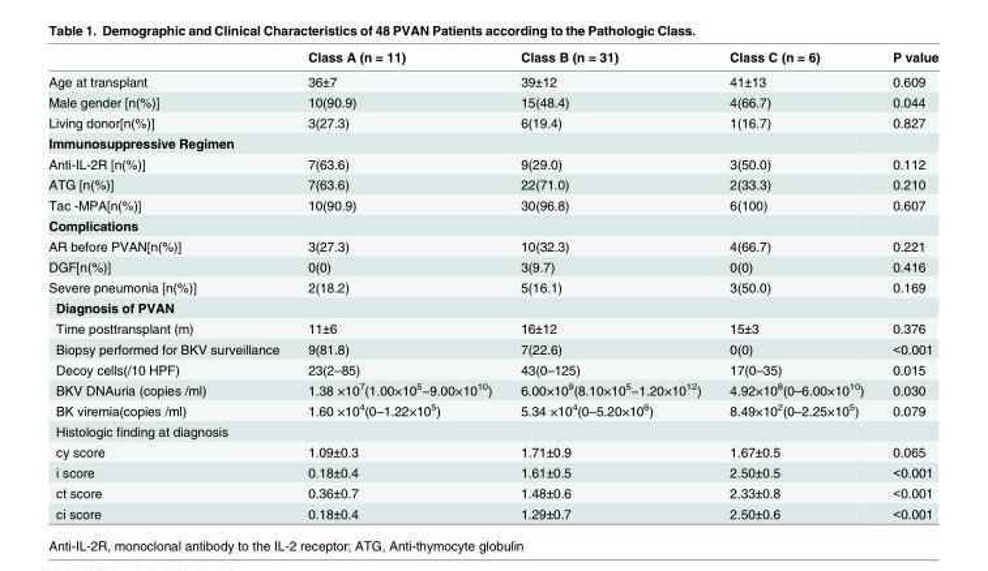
<table><thead><tr><td></td><td>Class A (n = 11)</td><td>Class B (n = 31)</td><td>Class C (n = 6)</td><td>P value</td></tr></thead><tbody><tr><td>Age at transplant</td><td>36±7</td><td>39±12</td><td>41±13</td><td>0.609</td></tr><tr><td>Male gender [n(%)]</td><td>10(90.9)</td><td>15(48.4)</td><td>4(66.7)</td><td>0.044</td></tr><tr><td>Living donor[n(%)]</td><td>3(27.3)</td><td>6(19.4)</td><td>1(16.7)</td><td>0.827</td></tr><tr><td colspan="5">Immunosuppressive Regimen</td></tr><tr><td>Anti-IL-2R [n(%)]</td><td>7(63.6)</td><td>9(29.0)</td><td>3(50.0)</td><td>0.112</td></tr><tr><td>ATG [n(%)]</td><td>7(63.6)</td><td>22(71.0)</td><td>2(33.3)</td><td>0.210</td></tr><tr><td>Tac -MPA[n(%)]</td><td>10(90.9)</td><td>30(96.8)</td><td>6(100)</td><td>0.607</td></tr><tr><td colspan="5">Complications</td></tr><tr><td>AR before PVAN[n(%)]</td><td>3(27.3)</td><td>10(32.3)</td><td>4(66.7)</td><td>0.221</td></tr><tr><td>DGF[n(%)]</td><td>0(0)</td><td>3(9.7)</td><td>0(0)</td><td>0.416</td></tr><tr><td>Severe pneumonia [n(%)]</td><td>2(18.2)</td><td>5(16.1)</td><td>3(50.0)</td><td>0.169</td></tr><tr><td colspan="5">Diagnosis of PVAN</td></tr><tr><td>Time posttransplant (m)</td><td>11±6</td><td>16±12</td><td>15±3</td><td>0.376</td></tr><tr><td>Biopsy performed for BKV surveillance</td><td>9(81.8)</td><td>7(22.6)</td><td>0(0)</td><td>&lt;0.001</td></tr><tr><td>Decoy cells(/10 HPF)</td><td>23(2–85)</td><td>43(0–125)</td><td>17(0–35)</td><td>0.015</td></tr><tr><td>BKV DNAuria (copies /ml)</td><td>1.38 ×10<sup>7</sup>(1.00×10<sup>5</sup>−9.00×10<sup>10</sup>)</td><td>6.00×10<sup>9</sup>(8.10×10<sup>5</sup>−1.20×10<sup>12</sup>)</td><td>4.92×10<sup>8</sup>(0–6.00×10<sup>10</sup>)</td><td>0.030</td></tr><tr><td>BK viremia(copies /ml)</td><td>1.60 ×10<sup>4</sup>(0–1.22×10<sup>5</sup>)</td><td>5.34 ×10<sup>4</sup>(0–5.20×10<sup>6</sup>)</td><td>8.49×10<sup>2</sup>(0–2.25×10<sup>5</sup>)</td><td>0.079</td></tr><tr><td colspan="5">Histologic finding at diagnosis</td></tr><tr><td>cy score</td><td>1.09±0.3</td><td>1.71±0.9</td><td>1.67±0.5</td><td>0.065</td></tr><tr><td>i score</td><td>0.18±0.4</td><td>1.61±0.5</td><td>2.50±0.5</td><td>&lt;0.001</td></tr><tr><td>ct score</td><td>0.36±0.7</td><td>1.48±0.6</td><td>2.33±0.8</td><td>&lt;0.001</td></tr><tr><td>ci score</td><td>0.18±0.4</td><td>1.29±0.7</td><td>2.50±0.6</td><td>&lt;0.001</td></tr></tbody></table>